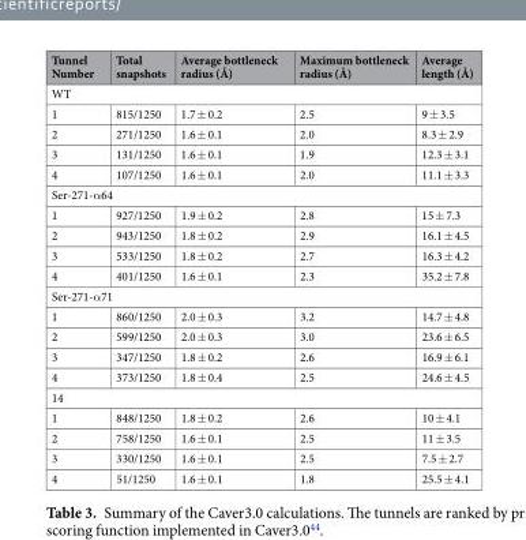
<table><thead><tr><td>Tunnel Number</td><td>Total snapshots</td><td>Average bottleneck radius (Å)</td><td>Maximum bottleneck radius (Å)</td><td>Average length (Å)</td></tr></thead><tbody><tr><td colspan="5">WT</td></tr><tr><td>1</td><td>815/1250</td><td>1.7 ± 0.2</td><td>2.5</td><td>9 ± 3.5</td></tr><tr><td>2</td><td>271/1250</td><td>1.6 ± 0.1</td><td>2.0</td><td>8.3 ± 2.9</td></tr><tr><td>3</td><td>131/1250</td><td>1.6 ± 0.1</td><td>1.9</td><td>12.3 ± 3.1</td></tr><tr><td>4</td><td>107/1250</td><td>1.6 ± 0.1</td><td>2.0</td><td>11.1 ± 3.3</td></tr><tr><td colspan="5">Ser-271-α64</td></tr><tr><td>1</td><td>927/1250</td><td>1.9 ± 0.2</td><td>2.8</td><td>15 ± 7.3</td></tr><tr><td>2</td><td>943/1250</td><td>1.8 ± 0.2</td><td>2.9</td><td>16.1 ± 4.5</td></tr><tr><td>3</td><td>533/1250</td><td>1.8 ± 0.2</td><td>2.7</td><td>16.3 ± 4.2</td></tr><tr><td>4</td><td>401/1250</td><td>1.6 ± 0.1</td><td>2.3</td><td>35.2 ± 7.8</td></tr><tr><td colspan="5">Ser-271-α71</td></tr><tr><td>1</td><td>860/1250</td><td>2.0 ± 0.3</td><td>3.2</td><td>14.7 ± 4.8</td></tr><tr><td>2</td><td>599/1250</td><td>2.0 ± 0.3</td><td>3.0</td><td>23.6 ± 6.5</td></tr><tr><td>3</td><td>347/1250</td><td>1.8 ± 0.2</td><td>2.6</td><td>16.9 ± 6.1</td></tr><tr><td>4</td><td>373/1250</td><td>1.8 ± 0.4</td><td>2.5</td><td>24.6 ± 4.5</td></tr><tr><td colspan="5">14</td></tr><tr><td>1</td><td>848/1250</td><td>1.8 ± 0.2</td><td>2.6</td><td>10 ± 4.1</td></tr><tr><td>2</td><td>758/1250</td><td>1.6 ± 0.1</td><td>2.5</td><td>11 ± 3.5</td></tr><tr><td>3</td><td>330/1250</td><td>1.6 ± 0.1</td><td>2.5</td><td>7.5 ± 2.7</td></tr><tr><td>4</td><td>51/1250</td><td>1.6 ± 0.1</td><td>1.8</td><td>25.5 ± 4.1</td></tr></tbody></table>